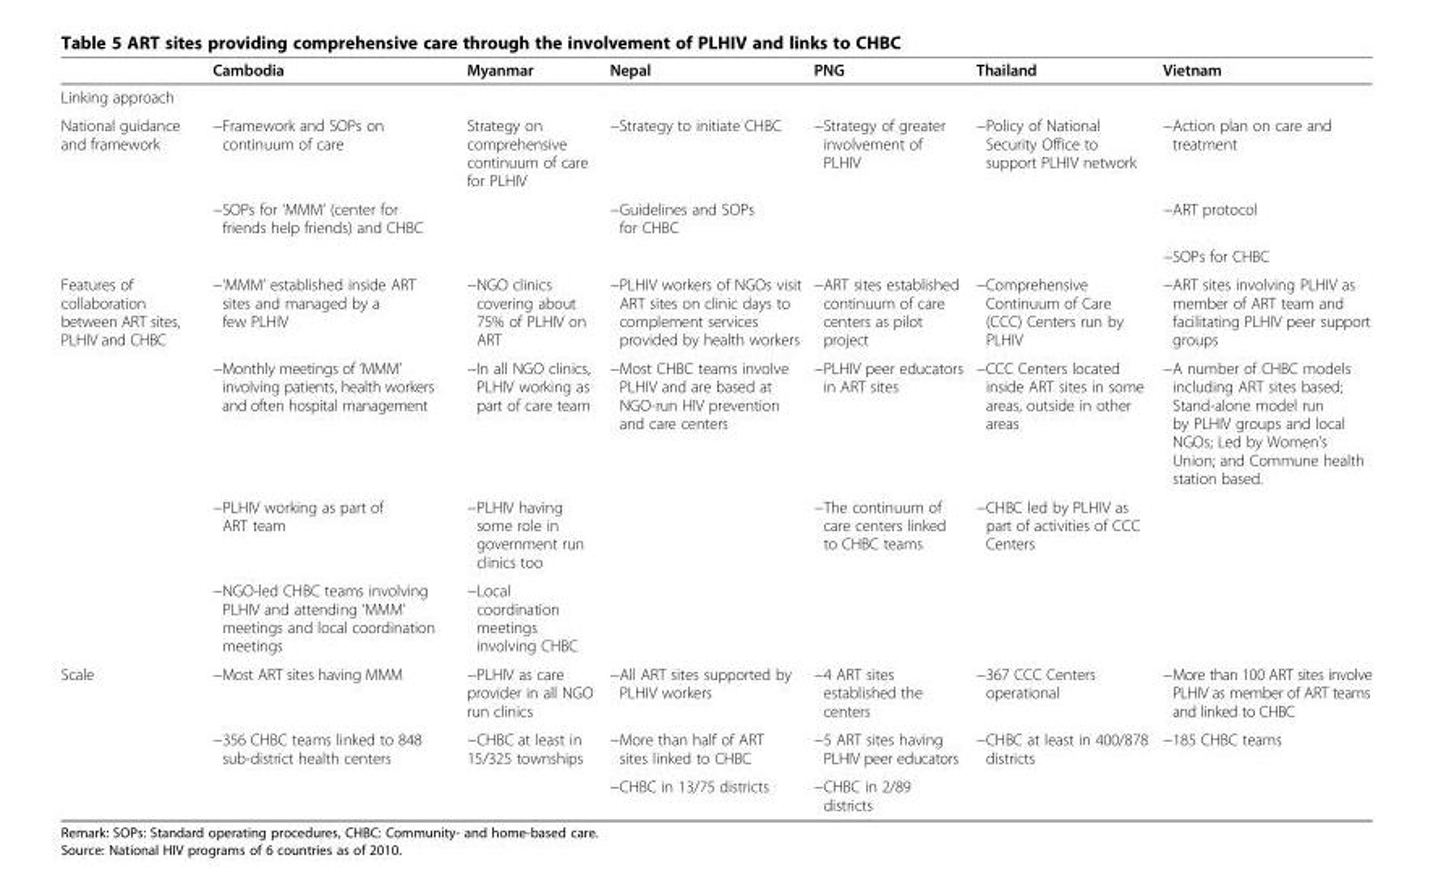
<table><thead><tr><td></td><td>Cambodia</td><td>Myanmar</td><td>Nepal</td><td>PNG</td><td>Thailand</td><td>Vietnam</td></tr></thead><tbody><tr><td colspan="7">Linking approach</td></tr><tr><td rowspan="3">National guidance and framework</td><td>−Framework and SOPs on continuum of care</td><td>Strategy on comprehensive continuum of care for PLHIV</td><td>−Strategy to initiate CHBC</td><td>−Strategy of greater involvement of PLHIV</td><td>−Policy of National Security Office to support PLHIV network</td><td>−Action plan on care and treatment</td></tr><tr><td>−SOPs for ‘MMM’ (center for friends help friends) and CHBC</td><td></td><td>−Guidelines and SOPs for CHBC</td><td></td><td></td><td>−ART protocol</td></tr><tr><td></td><td></td><td></td><td></td><td></td><td>−SOPs for CHBC</td></tr><tr><td rowspan="4">Features of collaboration between ART sites, PLHIV and CHBC</td><td>−‘MMM’ established inside ART sites and managed by a few PLHIV</td><td>−NGO clinics covering about 75% of PLHIV on ART</td><td>−PLHIV workers of NGOs visit ART sites on clinic days to complement services provided by health workers</td><td>−ART sites established continuum of care centers as pilot project</td><td>−Comprehensive Continuum of Care (CCC) Centers run by PLHIV</td><td>−ART sites involving PLHIV as member of ART team and facilitating PLHIV peer support groups</td></tr><tr><td>−Monthly meetings of ‘MMM’ involving patients, health workers and often hospital management</td><td>−In all NGO clinics, PLHIV working as part of care team</td><td>−Most CHBC teams involve PLHIV and are based at NGO-run HIV prevention and care centers</td><td>−PLHIV peer educators in ART sites</td><td>−CCC Centers located inside ART sites in some areas, outside in other areas</td><td>−A number of CHBC models including ART sites based; Stand-alone model run by PLHIV groups and local NGOs; Led by Women’s Union; and Commune health station based.</td></tr><tr><td>−PLHIV working as part of ART team</td><td>−PLHIV having some role in government run clinics too</td><td></td><td>−The continuum of care centers linked to CHBC teams</td><td>−CHBC led by PLHIV as part of activities of CCC Centers</td><td></td></tr><tr><td>−NGO-led CHBC teams involving PLHIV and attending ‘MMM’ meetings and local coordination meetings</td><td>−Local coordination meetings involving CHBC</td><td></td><td></td><td></td><td></td></tr><tr><td rowspan="3">Scale</td><td>−Most ART sites having MMM</td><td>−PLHIV as care provider in all NGO run clinics</td><td>−All ART sites supported by PLHIV workers</td><td>−4 ART sites established the centers</td><td>−367 CCC Centers operational</td><td>−More than 100 ART sites involve PLHIV as member of ART teams and linked to CHBC</td></tr><tr><td>−356 CHBC teams linked to 848 sub-district health centers</td><td>−CHBC at least in 15/325 townships</td><td>−More than half of ART sites linked to CHBC</td><td>−5 ART sites having PLHIV peer educators</td><td>−CHBC at least in 400/878 districts</td><td>−185 CHBC teams</td></tr><tr><td></td><td></td><td>−CHBC in 13/75 districts</td><td>−CHBC in 2/89 districts</td><td></td><td></td></tr></tbody></table>